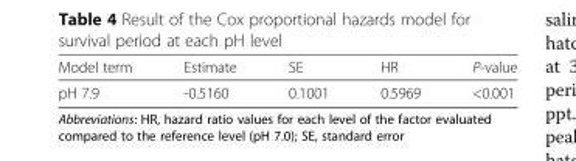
<table><thead><tr><td>Model term</td><td>Estimate</td><td>SE</td><td>HR</td><td>P-value</td></tr></thead><tbody><tr><td>pH 7.9</td><td>-0.5160</td><td>0.1001</td><td>0.5969</td><td>&lt;0.001</td></tr></tbody></table>